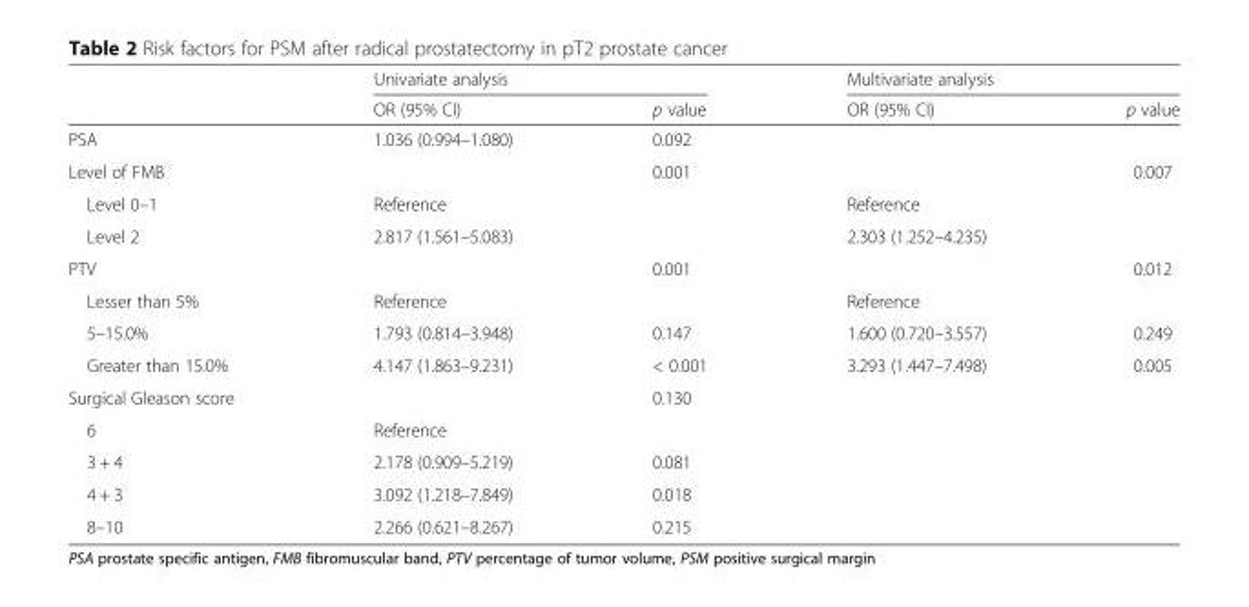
<table><thead><tr><td rowspan="2"></td><td colspan="2">Univariate analysis</td><td colspan="2">Multivariate analysis</td></tr><tr><td>OR (95% CI)</td><td>p value</td><td>OR (95% CI)</td><td>p value</td></tr></thead><tbody><tr><td>PSA</td><td>1.036 (0.994–1.080)</td><td>0.092</td><td></td><td></td></tr><tr><td>Level of FMB</td><td></td><td>0.001</td><td></td><td>0.007</td></tr><tr><td>Level 0–1</td><td>Reference</td><td></td><td>Reference</td><td></td></tr><tr><td>Level 2</td><td>2.817 (1.561–5.083)</td><td></td><td>2.303 (1.252–4.235)</td><td></td></tr><tr><td>PTV</td><td></td><td>0.001</td><td></td><td>0.012</td></tr><tr><td>Lesser than 5%</td><td>Reference</td><td></td><td>Reference</td><td></td></tr><tr><td>5–15.0%</td><td>1.793 (0.814–3.948)</td><td>0.147</td><td>1.600 (0.720–3.557)</td><td>0.249</td></tr><tr><td>Greater than 15.0%</td><td>4.147 (1.863–9.231)</td><td>&lt; 0.001</td><td>3.293 (1.447–7.498)</td><td>0.005</td></tr><tr><td>Surgical Gleason score</td><td></td><td>0.130</td><td></td><td></td></tr><tr><td>6</td><td>Reference</td><td></td><td></td><td></td></tr><tr><td>3 + 4</td><td>2.178 (0.909–5.219)</td><td>0.081</td><td></td><td></td></tr><tr><td>4 + 3</td><td>3.092 (1.218–7.849)</td><td>0.018</td><td></td><td></td></tr><tr><td>8–10</td><td>2.266 (0.621–8.267)</td><td>0.215</td><td></td><td></td></tr></tbody></table>